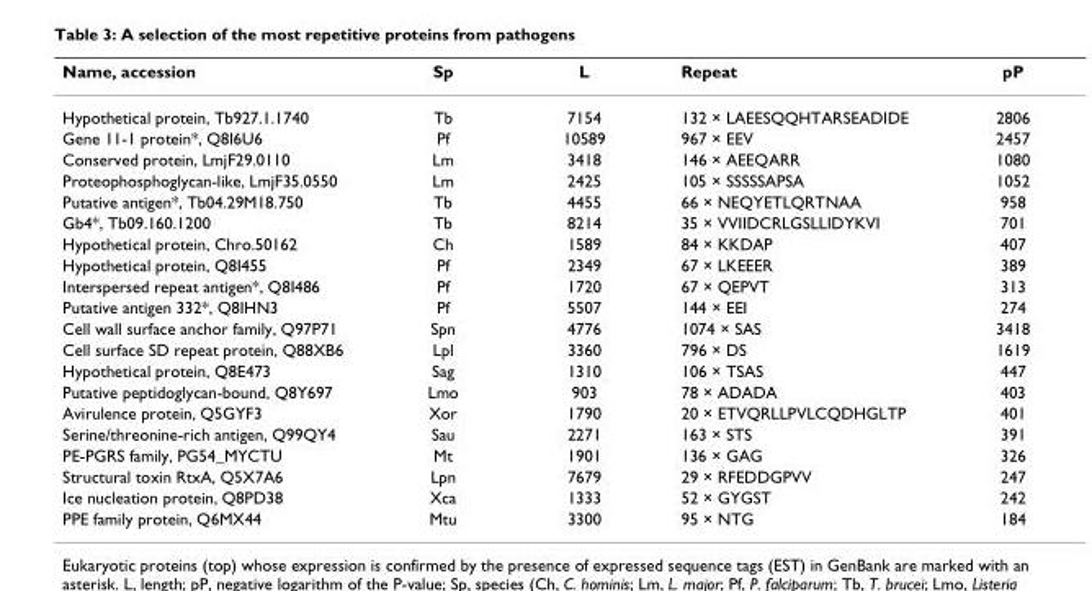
<table><thead><tr><td>Name, accession</td><td>Sp</td><td>L</td><td>Repeat</td><td>pP</td></tr></thead><tbody><tr><td>Hypothetical protein, Tb927.1.1740</td><td>Tb</td><td>7154</td><td>132 × LAEESQQHTARSEADIDE</td><td>2806</td></tr><tr><td>Gene 11-1 protein*, Q8I6U6</td><td>Pf</td><td>10589</td><td>967 × EEV</td><td>2457</td></tr><tr><td>Conserved protein, LmjF29.0110</td><td>Lm</td><td>3418</td><td>146 × AEEQARR</td><td>1080</td></tr><tr><td>Proteophosphoglycan-like, LmjF35.0550</td><td>Lm</td><td>2425</td><td>105 × SSSSSAPSA</td><td>1052</td></tr><tr><td>Putative antigen*, Tb04.29M18.750</td><td>Tb</td><td>4455</td><td>66 × NEQYETLQRTNAA</td><td>958</td></tr><tr><td>Gb4*, Tb09.160.1200</td><td>Tb</td><td>8214</td><td>35 × VVIIDCRLGSLLIDYKVI</td><td>701</td></tr><tr><td>Hypothetical protein, Chro.50162</td><td>Ch</td><td>1589</td><td>84 × KKDAP</td><td>407</td></tr><tr><td>Hypothetical protein, Q8I455</td><td>Pf</td><td>2349</td><td>67 × LKEEER</td><td>389</td></tr><tr><td>Interspersed repeat antigen*, Q8I486</td><td>Pf</td><td>1720</td><td>67 × QEPVT</td><td>313</td></tr><tr><td>Putative antigen 332*, Q8IHN3</td><td>Pf</td><td>5507</td><td>144 × EEI</td><td>274</td></tr><tr><td>Cell wall surface anchor family, Q97P71</td><td>Spn</td><td>4776</td><td>1074 × SAS</td><td>3418</td></tr><tr><td>Cell surface SD repeat protein, Q88XB6</td><td>Lpl</td><td>3360</td><td>796 × DS</td><td>1619</td></tr><tr><td>Hypothetical protein, Q8E473</td><td>Sag</td><td>1310</td><td>106 × TSAS</td><td>447</td></tr><tr><td>Putative peptidoglycan-bound, Q8Y697</td><td>Lmo</td><td>903</td><td>78 × ADADA</td><td>403</td></tr><tr><td>Avirulence protein, Q5GYF3</td><td>Xor</td><td>1790</td><td>20 × ETVQRLLPVLCQDHGLTP</td><td>401</td></tr><tr><td>Serine/threonine-rich antigen, Q99QY4</td><td>Sau</td><td>2271</td><td>163 × STS</td><td>391</td></tr><tr><td>PE-PGRS family, PG54_MYCTU</td><td>Mt</td><td>1901</td><td>136 × GAG</td><td>326</td></tr><tr><td>Structural toxin RtxA, Q5X7A6</td><td>Lpn</td><td>7679</td><td>29 × RFEDDGPVV</td><td>247</td></tr><tr><td>Ice nucleation protein, Q8PD38</td><td>Xca</td><td>1333</td><td>52 × GYGST</td><td>242</td></tr><tr><td>PPE family protein, Q6MX44</td><td>Mtu</td><td>3300</td><td>95 × NTG</td><td>184</td></tr></tbody></table>